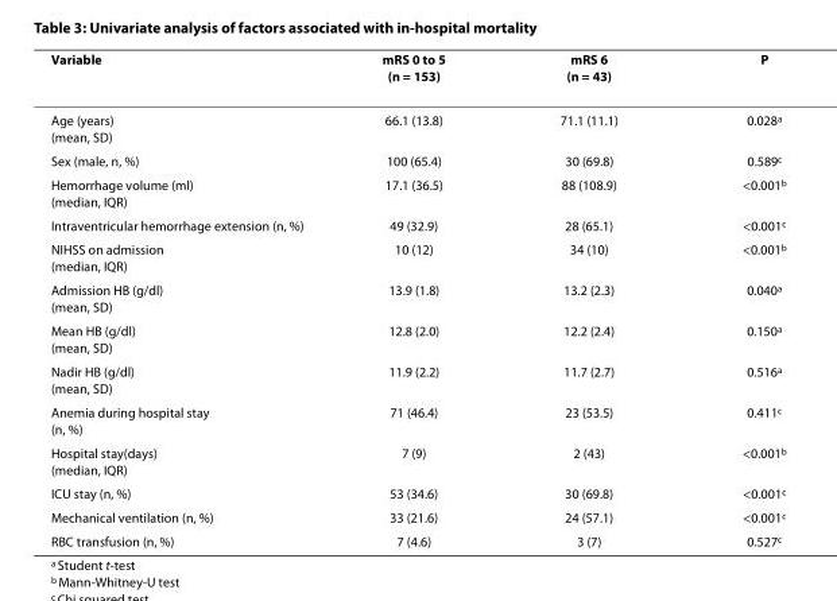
<table><thead><tr><td>Variable</td><td>mRS 0 to 5 (n = 153)</td><td>mRS 6 (n = 43)</td><td>P</td></tr></thead><tbody><tr><td>Age (years) (mean, SD)</td><td>66.1 (13.8)</td><td>71.1 (11.1)</td><td>0.028<sup>a</sup></td></tr><tr><td>Sex (male, n, %)</td><td>100 (65.4)</td><td>30 (69.8)</td><td>0.589<sup>c</sup></td></tr><tr><td>Hemorrhage volume (ml) (median, IQR)</td><td>17.1 (36.5)</td><td>88 (108.9)</td><td>&lt;0.001<sup>b</sup></td></tr><tr><td>Intraventricular hemorrhage extension (n, %)</td><td>49 (32.9)</td><td>28 (65.1)</td><td>&lt;0.001<sup>c</sup></td></tr><tr><td>NIHSS on admission (median, IQR)</td><td>10 (12)</td><td>34 (10)</td><td>&lt;0.001<sup>b</sup></td></tr><tr><td>Admission HB (g/dl) (mean, SD)</td><td>13.9 (1.8)</td><td>13.2 (2.3)</td><td>0.040<sup>a</sup></td></tr><tr><td>Mean HB (g/dl) (mean, SD)</td><td>12.8 (2.0)</td><td>12.2 (2.4)</td><td>0.150<sup>a</sup></td></tr><tr><td>Nadir HB (g/dl) (mean, SD)</td><td>11.9 (2.2)</td><td>11.7 (2.7)</td><td>0.516<sup>a</sup></td></tr><tr><td>Anemia during hospital stay (n, %)</td><td>71 (46.4)</td><td>23 (53.5)</td><td>0.411<sup>c</sup></td></tr><tr><td>Hospital stay(days) (median, IQR)</td><td>7 (9)</td><td>2 (43)</td><td>&lt;0.001<sup>b</sup></td></tr><tr><td>ICU stay (n, %)</td><td>53 (34.6)</td><td>30 (69.8)</td><td>&lt;0.001<sup>c</sup></td></tr><tr><td>Mechanical ventilation (n, %)</td><td>33 (21.6)</td><td>24 (57.1)</td><td>&lt;0.001<sup>c</sup></td></tr><tr><td>RBC transfusion (n, %)</td><td>7 (4.6)</td><td>3 (7)</td><td>0.527<sup>c</sup></td></tr></tbody></table>